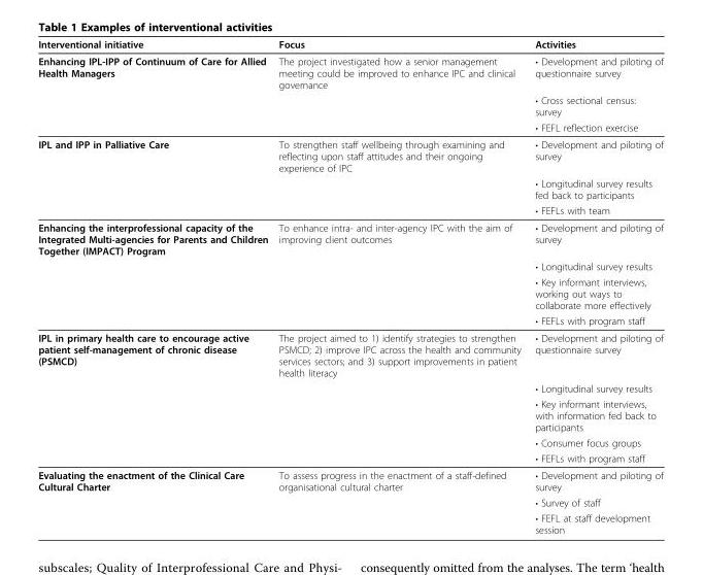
<table><thead><tr><td>Interventional initiative</td><td>Focus</td><td>Activities</td></tr></thead><tbody><tr><td rowspan="3">Enhancing IPL-IPP of Continuum of Care for Allied Health Managers</td><td>The project investigated how a senior management meeting could be improved to enhance IPC and clinical governance</td><td>• Development and piloting of questionnaire survey</td></tr><tr><td></td><td>• Cross sectional census: survey</td></tr><tr><td></td><td>• FEFL reflection exercise</td></tr><tr><td rowspan="3">IPL and IPP in Palliative Care</td><td>To strengthen staff wellbeing through examining and reflecting upon staff attitudes and their ongoing experience of IPC</td><td>• Development and piloting of survey</td></tr><tr><td></td><td>• Longitudinal survey results fed back to participants</td></tr><tr><td></td><td>• FEFLs with team</td></tr><tr><td rowspan="4">Enhancing the interprofessional capacity of the Integrated Multi-agencies for Parents and Children Together (IMPACT) Program</td><td>To enhance intra- and inter-agency IPC with the aim of improving client outcomes</td><td>• Development and piloting of survey</td></tr><tr><td></td><td>• Longitudinal survey results</td></tr><tr><td></td><td>• Key informant interviews, working out ways to collaborate more effectively</td></tr><tr><td></td><td>• FEFLs with program staff</td></tr><tr><td rowspan="5">IPL in primary health care to encourage active patient self-management of chronic disease (PSMCD)</td><td>The project aimed to 1) identify strategies to strengthen PSMCD; 2) improve IPC across the health and community services sectors; and 3) support improvements in patient health literacy</td><td>• Development and piloting of questionnaire survey</td></tr><tr><td></td><td>• Longitudinal survey results</td></tr><tr><td></td><td>• Key informant interviews, with information fed back to participants</td></tr><tr><td></td><td>• Consumer focus groups</td></tr><tr><td></td><td>• FEFLs with program staff</td></tr><tr><td rowspan="3">Evaluating the enactment of the Clinical Care Cultural Charter</td><td>To assess progress in the enactment of a staff-defined organisational cultural charter</td><td>• Development and piloting of survey</td></tr><tr><td></td><td>• Survey of staff</td></tr><tr><td></td><td>• FEFL at staff development session</td></tr></tbody></table>